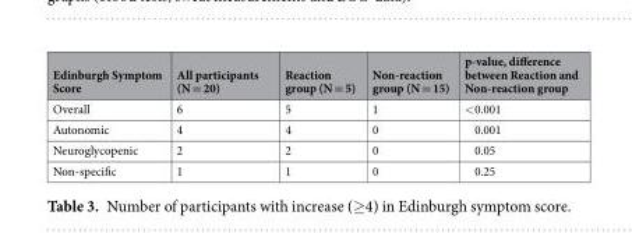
<table><thead><tr><td>Edinburgh Symptom Score</td><td>All participants (N = 20)</td><td>Reaction group (N = 5)</td><td>Non-reaction group (N = 15)</td><td>p-value, difference between Reaction and Non-reaction group</td></tr></thead><tbody><tr><td>Overall</td><td>6</td><td>5</td><td>1</td><td>&lt;0.001</td></tr><tr><td>Autonomic</td><td>4</td><td>4</td><td>0</td><td>0.001</td></tr><tr><td>Neuroglycopenic</td><td>2</td><td>2</td><td>0</td><td>0.05</td></tr><tr><td>Non-specific</td><td>1</td><td>1</td><td>0</td><td>0.25</td></tr></tbody></table>